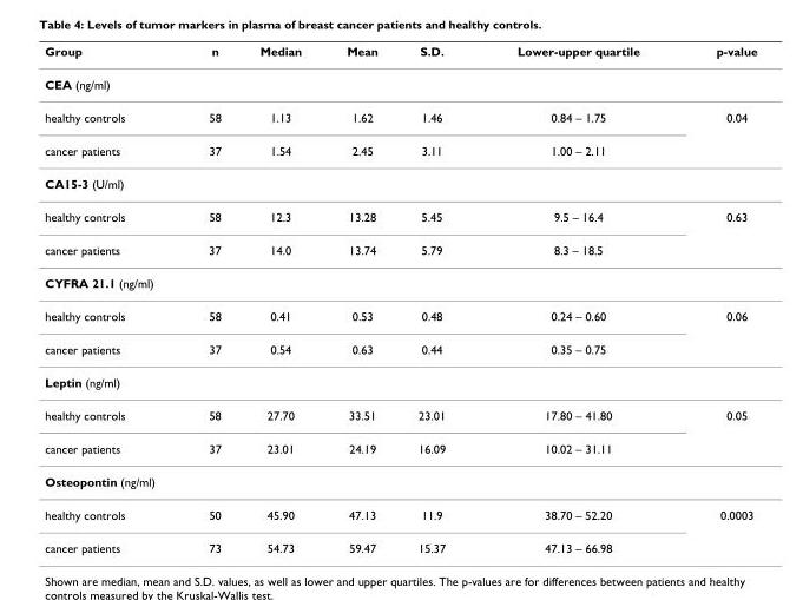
<table><thead><tr><td>Group</td><td>n</td><td>Median</td><td>Mean</td><td>S.D.</td><td>Lower-upper quartile</td><td>p-value</td></tr></thead><tbody><tr><td colspan="7">CEA (ng/ml)</td></tr><tr><td>healthy controls</td><td>58</td><td>1.13</td><td>1.62</td><td>1.46</td><td>0.84 – 1.75</td><td>0.04</td></tr><tr><td>cancer patients</td><td>37</td><td>1.54</td><td>2.45</td><td>3.11</td><td>1.00 – 2.11</td><td></td></tr><tr><td colspan="7">CA15-3 (U/ml)</td></tr><tr><td>healthy controls</td><td>58</td><td>12.3</td><td>13.28</td><td>5.45</td><td>9.5 – 16.4</td><td>0.63</td></tr><tr><td>cancer patients</td><td>37</td><td>14.0</td><td>13.74</td><td>5.79</td><td>8.3 – 18.5</td><td></td></tr><tr><td colspan="7">CYFRA 21.1 (ng/ml)</td></tr><tr><td>healthy controls</td><td>58</td><td>0.41</td><td>0.53</td><td>0.48</td><td>0.24 – 0.60</td><td>0.06</td></tr><tr><td>cancer patients</td><td>37</td><td>0.54</td><td>0.63</td><td>0.44</td><td>0.35 – 0.75</td><td></td></tr><tr><td colspan="7">Leptin (ng/ml)</td></tr><tr><td>healthy controls</td><td>58</td><td>27.70</td><td>33.51</td><td>23.01</td><td>17.80 – 41.80</td><td>0.05</td></tr><tr><td>cancer patients</td><td>37</td><td>23.01</td><td>24.19</td><td>16.09</td><td>10.02 – 31.11</td><td></td></tr><tr><td colspan="7">Osteopontin (ng/ml)</td></tr><tr><td>healthy controls</td><td>50</td><td>45.90</td><td>47.13</td><td>11.9</td><td>38.70 – 52.20</td><td>0.0003</td></tr><tr><td>cancer patients</td><td>73</td><td>54.73</td><td>59.47</td><td>15.37</td><td>47.13 – 66.98</td><td></td></tr></tbody></table>